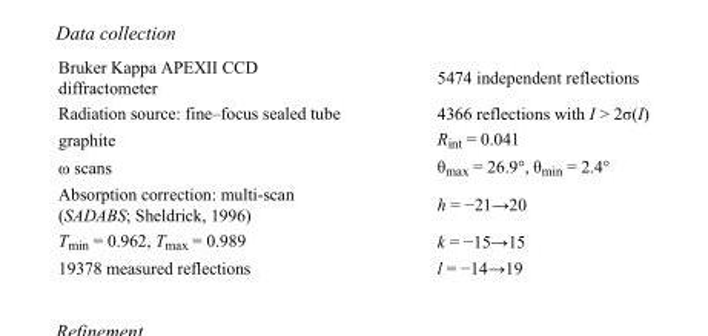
<table><tbody><tr><td>Bruker Kappa APEXII CCD diffractometer</td><td>5474 independent reflections</td></tr><tr><td>Radiation source: fine–focus sealed tube</td><td>4366 reflections with I &gt; 2σ(I)</td></tr><tr><td>graphite</td><td>R<sub>int</sub> = 0.041</td></tr><tr><td>ω scans</td><td>θ<sub>max</sub> = 26.9°, θ<sub>min</sub> = 2.4°</td></tr><tr><td>Absorption correction: multi-scan (SADABS; Sheldrick, 1996)</td><td>h = −21→20</td></tr><tr><td>T<sub>min</sub> = 0.962, T<sub>max</sub> = 0.989</td><td>k = −15→15</td></tr><tr><td>19378 measured reflections</td><td>l = −14→19</td></tr></tbody></table>